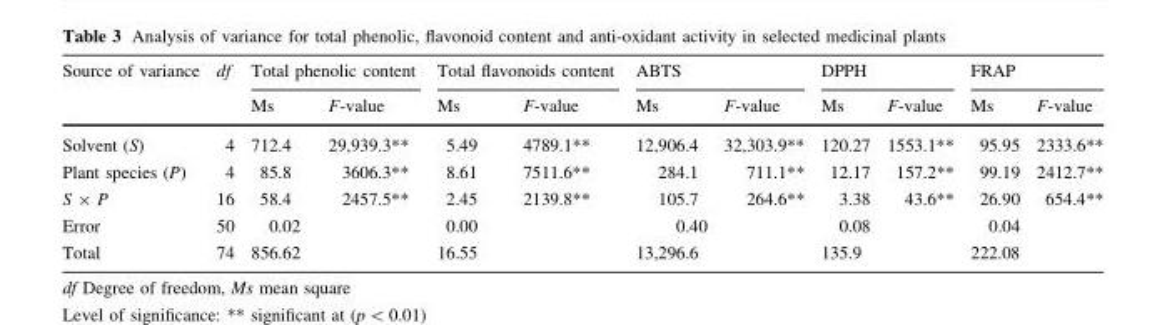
<table><thead><tr><td rowspan="2">Source of variance</td><td rowspan="2">df</td><td colspan="2">Total phenolic content</td><td colspan="2">Total flavonoids content</td><td colspan="2">ABTS</td><td colspan="2">DPPH</td><td colspan="2">FRAP</td></tr><tr><td>Ms</td><td>F-value</td><td>Ms</td><td>F-value</td><td>Ms</td><td>F-value</td><td>Ms</td><td>F-value</td><td>Ms</td><td>F-value</td></tr></thead><tbody><tr><td>Solvent (S)</td><td>4</td><td>712.4</td><td>29,939.3**</td><td>5.49</td><td>4789.1**</td><td>12,906.4</td><td>32,303.9**</td><td>120.27</td><td>1553.1**</td><td>95.95</td><td>2333.6**</td></tr><tr><td>Plant species (P)</td><td>4</td><td>85.8</td><td>3606.3**</td><td>8.61</td><td>7511.6**</td><td>284.1</td><td>711.1**</td><td>12.17</td><td>157.2**</td><td>99.19</td><td>2412.7**</td></tr><tr><td>S × P</td><td>16</td><td>58.4</td><td>2457.5**</td><td>2.45</td><td>2139.8**</td><td>105.7</td><td>264.6**</td><td>3.38</td><td>43.6**</td><td>26.90</td><td>654.4**</td></tr><tr><td>Error</td><td>50</td><td>0.02</td><td></td><td>0.00</td><td></td><td>0.40</td><td></td><td>0.08</td><td></td><td>0.04</td><td></td></tr><tr><td>Total</td><td>74</td><td>856.62</td><td></td><td>16.55</td><td></td><td>13,296.6</td><td></td><td>135.9</td><td></td><td>222.08</td><td></td></tr></tbody></table>